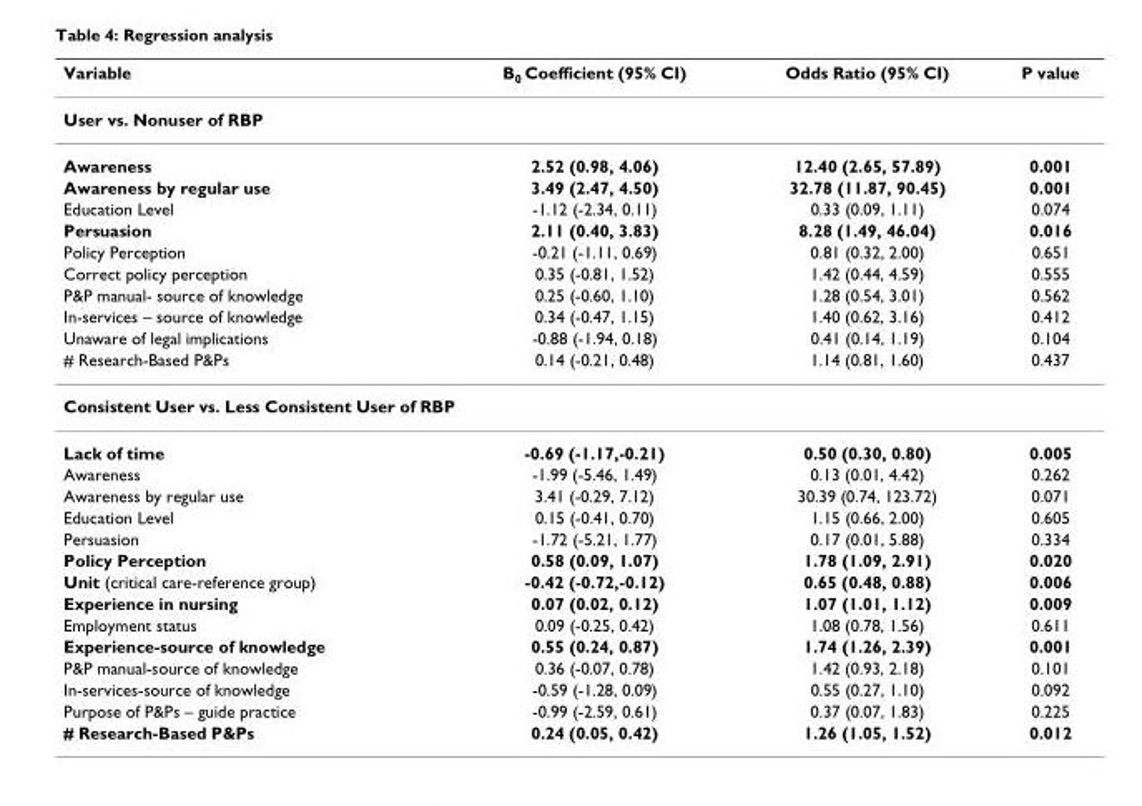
<table><thead><tr><td>Variable</td><td>B<sub>0</sub> Coefficient (95% CI)</td><td>Odds Ratio (95% CI)</td><td>P value</td></tr></thead><tbody><tr><td colspan="4">User vs. Nonuser of RBP</td></tr><tr><td>Awareness</td><td>2.52 (0.98, 4.06)</td><td>12.40 (2.65, 57.89)</td><td>0.001</td></tr><tr><td>Awareness by regular use</td><td>3.49 (2.47, 4.50)</td><td>32.78 (11.87, 90.45)</td><td>0.001</td></tr><tr><td>Education Level</td><td>-1.12 (-2.34, 0.11)</td><td>0.33 (0.09, 1.11)</td><td>0.074</td></tr><tr><td>Persuasion</td><td>2.11 (0.40, 3.83)</td><td>8.28 (1.49, 46.04)</td><td>0.016</td></tr><tr><td>Policy Perception</td><td>-0.21 (-1.11, 0.69)</td><td>0.81 (0.32, 2.00)</td><td>0.651</td></tr><tr><td>Correct policy perception</td><td>0.35 (-0.81, 1.52)</td><td>1.42 (0.44, 4.59)</td><td>0.555</td></tr><tr><td>P&amp;P manual- source of knowledge</td><td>0.25 (-0.60, 1.10)</td><td>1.28 (0.54, 3.01)</td><td>0.562</td></tr><tr><td>In-services – source of knowledge</td><td>0.34 (-0.47, 1.15)</td><td>1.40 (0.62, 3.16)</td><td>0.412</td></tr><tr><td>Unaware of legal implications</td><td>-0.88 (-1.94, 0.18)</td><td>0.41 (0.14, 1.19)</td><td>0.104</td></tr><tr><td># Research-Based P&amp;Ps</td><td>0.14 (-0.21, 0.48)</td><td>1.14 (0.81, 1.60)</td><td>0.437</td></tr><tr><td colspan="4">Consistent User vs. Less Consistent User of RBP</td></tr><tr><td>Lack of time</td><td>-0.69 (-1.17,-0.21)</td><td>0.50 (0.30, 0.80)</td><td>0.005</td></tr><tr><td>Awareness</td><td>-1.99 (-5.46, 1.49)</td><td>0.13 (0.01, 4.42)</td><td>0.262</td></tr><tr><td>Awareness by regular use</td><td>3.41 (-0.29, 7.12)</td><td>30.39 (0.74, 123.72)</td><td>0.071</td></tr><tr><td>Education Level</td><td>0.15 (-0.41, 0.70)</td><td>1.15 (0.66, 2.00)</td><td>0.605</td></tr><tr><td>Persuasion</td><td>-1.72 (-5.21, 1.77)</td><td>0.17 (0.01, 5.88)</td><td>0.334</td></tr><tr><td>Policy Perception</td><td>0.58 (0.09, 1.07)</td><td>1.78 (1.09, 2.91)</td><td>0.020</td></tr><tr><td>Unit (critical care-reference group)</td><td>-0.42 (-0.72,-0.12)</td><td>0.65 (0.48, 0.88)</td><td>0.006</td></tr><tr><td>Experience in nursing</td><td>0.07 (0.02, 0.12)</td><td>1.07 (1.01, 1.12)</td><td>0.009</td></tr><tr><td>Employment status</td><td>0.09 (-0.25, 0.42)</td><td>1.08 (0.78, 1.56)</td><td>0.611</td></tr><tr><td>Experience-source of knowledge</td><td>0.55 (0.24, 0.87)</td><td>1.74 (1.26, 2.39)</td><td>0.001</td></tr><tr><td>P&amp;P manual-source of knowledge</td><td>0.36 (-0.07, 0.78)</td><td>1.42 (0.93, 2.18)</td><td>0.101</td></tr><tr><td>In-services-source of knowledge</td><td>-0.59 (-1.28, 0.09)</td><td>0.55 (0.27, 1.10)</td><td>0.092</td></tr><tr><td>Purpose of P&amp;Ps – guide practice</td><td>-0.99 (-2.59, 0.61)</td><td>0.37 (0.07, 1.83)</td><td>0.225</td></tr><tr><td># Research-Based P&amp;Ps</td><td>0.24 (0.05, 0.42)</td><td>1.26 (1.05, 1.52)</td><td>0.012</td></tr></tbody></table>